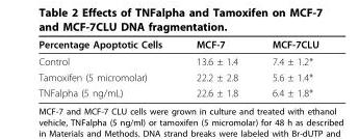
<table><thead><tr><td>Percentage Apoptotic Cells</td><td>MCF-7</td><td>MCF-7CLU</td></tr></thead><tbody><tr><td>Control</td><td>13.6 ± 1.4</td><td>7.4 ± 1.2*</td></tr><tr><td>Tamoxifen (5 micromolar)</td><td>22.2 ± 2.8</td><td>5.6 ± 1.4*</td></tr><tr><td>TNFalpha (5 ng/mL)</td><td>22.6 ± 1.8</td><td>6.4 ± 1.8*</td></tr></tbody></table>